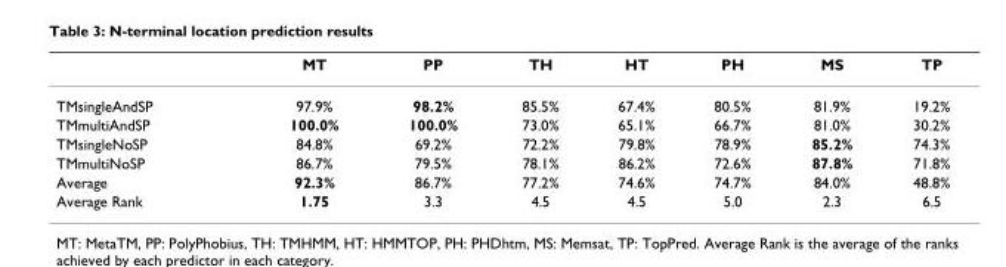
<table><thead><tr><td></td><td>MT</td><td>PP</td><td>TH</td><td>HT</td><td>PH</td><td>MS</td><td>TP</td></tr></thead><tbody><tr><td>TMsingleAndSP</td><td>97.9%</td><td>98.2%</td><td>85.5%</td><td>67.4%</td><td>80.5%</td><td>81.9%</td><td>19.2%</td></tr><tr><td>TMmultiAndSP</td><td>100.0%</td><td>100.0%</td><td>73.0%</td><td>65.1%</td><td>66.7%</td><td>81.0%</td><td>30.2%</td></tr><tr><td>TMsingleNoSP</td><td>84.8%</td><td>69.2%</td><td>72.2%</td><td>79.8%</td><td>78.9%</td><td>85.2%</td><td>74.3%</td></tr><tr><td>TMmultiNoSP</td><td>86.7%</td><td>79.5%</td><td>78.1%</td><td>86.2%</td><td>72.6%</td><td>87.8%</td><td>71.8%</td></tr><tr><td>Average</td><td>92.3%</td><td>86.7%</td><td>77.2%</td><td>74.6%</td><td>74.7%</td><td>84.0%</td><td>48.8%</td></tr><tr><td>Average Rank</td><td>1.75</td><td>3.3</td><td>4.5</td><td>4.5</td><td>5.0</td><td>2.3</td><td>6.5</td></tr></tbody></table>